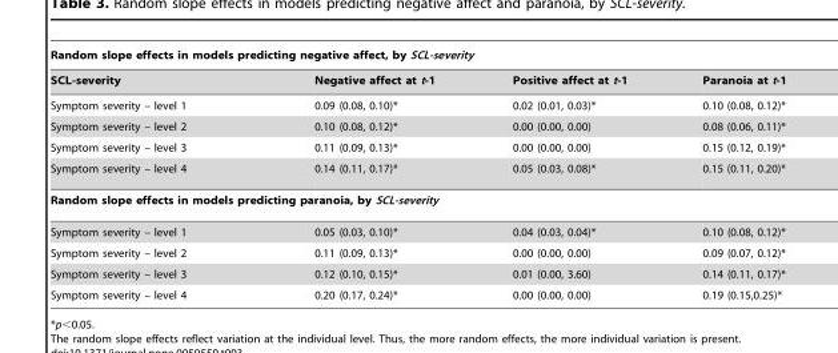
<table><thead><tr><td colspan="4">Random slope effects in models predicting negative affect, by SCL-severity</td></tr><tr><td>SCL-severity</td><td>Negative affect at t-1</td><td>Positive affect at t-1</td><td>Paranoia at t-1</td></tr></thead><tbody><tr><td>Symptom severity – level 1</td><td>0.09 (0.08, 0.10)*</td><td>0.02 (0.01, 0.03)*</td><td>0.10 (0.08, 0.12)*</td></tr><tr><td>Symptom severity – level 2</td><td>0.10 (0.08, 0.12)*</td><td>0.00 (0.00, 0.00)</td><td>0.08 (0.06, 0.11)*</td></tr><tr><td>Symptom severity – level 3</td><td>0.11 (0.09, 0.13)*</td><td>0.00 (0.00, 0.00)</td><td>0.15 (0.12, 0.19)*</td></tr><tr><td>Symptom severity – level 4</td><td>0.14 (0.11, 0.17)*</td><td>0.05 (0.03, 0.08)*</td><td>0.15 (0.11, 0.20)*</td></tr><tr><td colspan="4">Random slope effects in models predicting paranoia, by SCL-severity</td></tr><tr><td>Symptom severity – level 1</td><td>0.05 (0.03, 0.10)*</td><td>0.04 (0.03, 0.04)*</td><td>0.10 (0.08, 0.12)*</td></tr><tr><td>Symptom severity – level 2</td><td>0.11 (0.09, 0.13)*</td><td>0.00 (0.00, 0.00)</td><td>0.09 (0.07, 0.12)*</td></tr><tr><td>Symptom severity – level 3</td><td>0.12 (0.10, 0.15)*</td><td>0.01 (0.00, 3.60)</td><td>0.14 (0.11, 0.17)*</td></tr><tr><td>Symptom severity – level 4</td><td>0.20 (0.17, 0.24)*</td><td>0.00 (0.00, 0.00)</td><td>0.19 (0.15,0.25)*</td></tr></tbody></table>